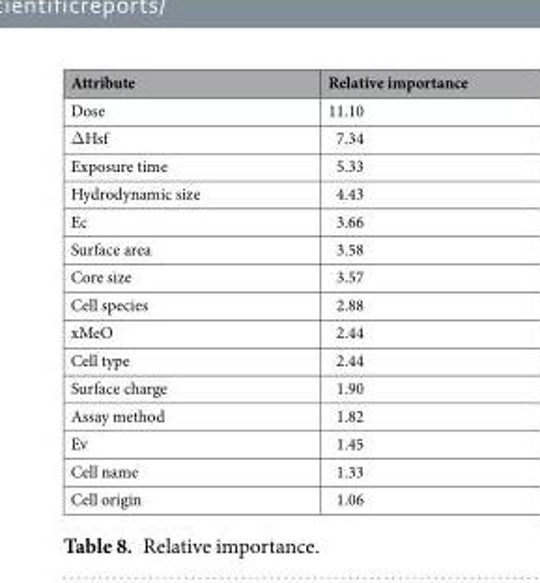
<table><thead><tr><td>Attribute</td><td>Relative importance</td></tr></thead><tbody><tr><td>Dose</td><td>11.10</td></tr><tr><td>ΔHsf</td><td>7.34</td></tr><tr><td>Exposure time</td><td>5.33</td></tr><tr><td>Hydrodynamic size</td><td>4.43</td></tr><tr><td>Ec</td><td>3.66</td></tr><tr><td>Surface area</td><td>3.58</td></tr><tr><td>Core size</td><td>3.57</td></tr><tr><td>Cell species</td><td>2.88</td></tr><tr><td>xMeO</td><td>2.44</td></tr><tr><td>Cell type</td><td>2.44</td></tr><tr><td>Surface charge</td><td>1.90</td></tr><tr><td>Assay method</td><td>1.82</td></tr><tr><td>Ev</td><td>1.45</td></tr><tr><td>Cell name</td><td>1.33</td></tr><tr><td>Cell origin</td><td>1.06</td></tr></tbody></table>